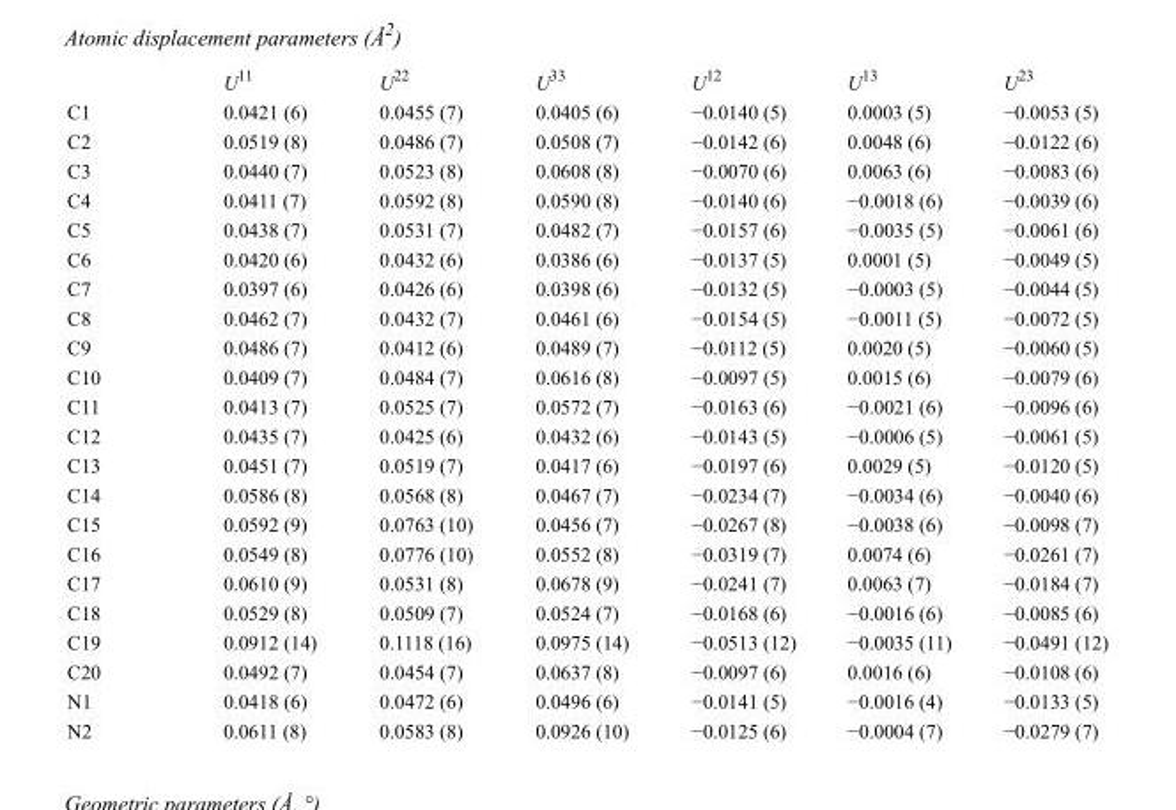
<table><thead><tr><td></td><td>U<sup>11</sup></td><td>U<sup>22</sup></td><td>U<sup>33</sup></td><td>U<sup>12</sup></td><td>U<sup>13</sup></td><td>U<sup>23</sup></td></tr></thead><tbody><tr><td>C1</td><td>0.0421 (6)</td><td>0.0455 (7)</td><td>0.0405 (6)</td><td>−0.0140 (5)</td><td>0.0003 (5)</td><td>−0.0053 (5)</td></tr><tr><td>C2</td><td>0.0519 (8)</td><td>0.0486 (7)</td><td>0.0508 (7)</td><td>−0.0142 (6)</td><td>0.0048 (6)</td><td>−0.0122 (6)</td></tr><tr><td>C3</td><td>0.0440 (7)</td><td>0.0523 (8)</td><td>0.0608 (8)</td><td>−0.0070 (6)</td><td>0.0063 (6)</td><td>−0.0083 (6)</td></tr><tr><td>C4</td><td>0.0411 (7)</td><td>0.0592 (8)</td><td>0.0590 (8)</td><td>−0.0140 (6)</td><td>−0.0018 (6)</td><td>−0.0039 (6)</td></tr><tr><td>C5</td><td>0.0438 (7)</td><td>0.0531 (7)</td><td>0.0482 (7)</td><td>−0.0157 (6)</td><td>−0.0035 (5)</td><td>−0.0061 (6)</td></tr><tr><td>C6</td><td>0.0420 (6)</td><td>0.0432 (6)</td><td>0.0386 (6)</td><td>−0.0137 (5)</td><td>0.0001 (5)</td><td>−0.0049 (5)</td></tr><tr><td>C7</td><td>0.0397 (6)</td><td>0.0426 (6)</td><td>0.0398 (6)</td><td>−0.0132 (5)</td><td>−0.0003 (5)</td><td>−0.0044 (5)</td></tr><tr><td>C8</td><td>0.0462 (7)</td><td>0.0432 (7)</td><td>0.0461 (6)</td><td>−0.0154 (5)</td><td>−0.0011 (5)</td><td>−0.0072 (5)</td></tr><tr><td>C9</td><td>0.0486 (7)</td><td>0.0412 (6)</td><td>0.0489 (7)</td><td>−0.0112 (5)</td><td>0.0020 (5)</td><td>−0.0060 (5)</td></tr><tr><td>C10</td><td>0.0409 (7)</td><td>0.0484 (7)</td><td>0.0616 (8)</td><td>−0.0097 (5)</td><td>0.0015 (6)</td><td>−0.0079 (6)</td></tr><tr><td>C11</td><td>0.0413 (7)</td><td>0.0525 (7)</td><td>0.0572 (7)</td><td>−0.0163 (6)</td><td>−0.0021 (6)</td><td>−0.0096 (6)</td></tr><tr><td>C12</td><td>0.0435 (7)</td><td>0.0425 (6)</td><td>0.0432 (6)</td><td>−0.0143 (5)</td><td>−0.0006 (5)</td><td>−0.0061 (5)</td></tr><tr><td>C13</td><td>0.0451 (7)</td><td>0.0519 (7)</td><td>0.0417 (6)</td><td>−0.0197 (6)</td><td>0.0029 (5)</td><td>−0.0120 (5)</td></tr><tr><td>C14</td><td>0.0586 (8)</td><td>0.0568 (8)</td><td>0.0467 (7)</td><td>−0.0234 (7)</td><td>−0.0034 (6)</td><td>−0.0040 (6)</td></tr><tr><td>C15</td><td>0.0592 (9)</td><td>0.0763 (10)</td><td>0.0456 (7)</td><td>−0.0267 (8)</td><td>−0.0038 (6)</td><td>−0.0098 (7)</td></tr><tr><td>C16</td><td>0.0549 (8)</td><td>0.0776 (10)</td><td>0.0552 (8)</td><td>−0.0319 (7)</td><td>0.0074 (6)</td><td>−0.0261 (7)</td></tr><tr><td>C17</td><td>0.0610 (9)</td><td>0.0531 (8)</td><td>0.0678 (9)</td><td>−0.0241 (7)</td><td>0.0063 (7)</td><td>−0.0184 (7)</td></tr><tr><td>C18</td><td>0.0529 (8)</td><td>0.0509 (7)</td><td>0.0524 (7)</td><td>−0.0168 (6)</td><td>−0.0016 (6)</td><td>−0.0085 (6)</td></tr><tr><td>C19</td><td>0.0912 (14)</td><td>0.1118 (16)</td><td>0.0975 (14)</td><td>−0.0513 (12)</td><td>−0.0035 (11)</td><td>−0.0491 (12)</td></tr><tr><td>C20</td><td>0.0492 (7)</td><td>0.0454 (7)</td><td>0.0637 (8)</td><td>−0.0097 (6)</td><td>0.0016 (6)</td><td>−0.0108 (6)</td></tr><tr><td>N1</td><td>0.0418 (6)</td><td>0.0472 (6)</td><td>0.0496 (6)</td><td>−0.0141 (5)</td><td>−0.0016 (4)</td><td>−0.0133 (5)</td></tr><tr><td>N2</td><td>0.0611 (8)</td><td>0.0583 (8)</td><td>0.0926 (10)</td><td>−0.0125 (6)</td><td>−0.0004 (7)</td><td>−0.0279 (7)</td></tr></tbody></table>